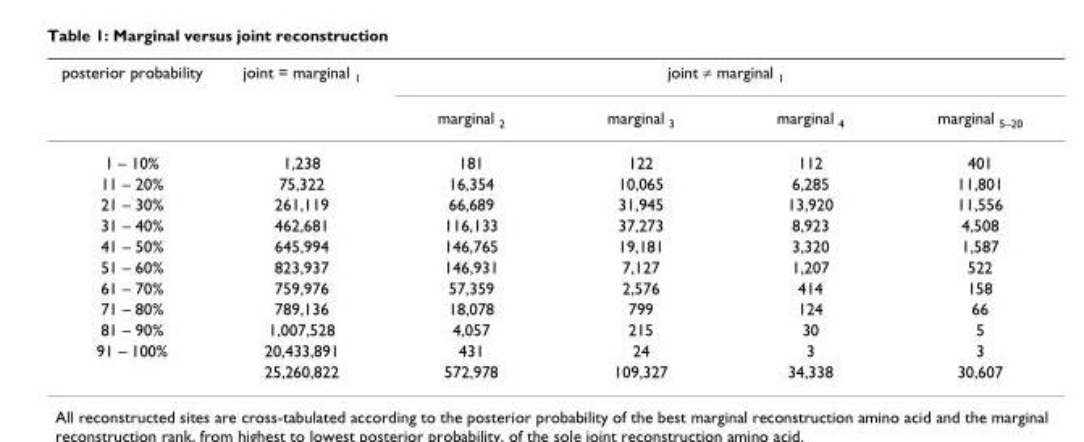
<table><thead><tr><td rowspan="2">posterior probability</td><td rowspan="2">joint = marginal <sub>1</sub></td><td colspan="4">joint ≠ marginal <sub>1</sub></td></tr><tr><td>marginal <sub>2</sub></td><td>marginal <sub>3</sub></td><td>marginal <sub>4</sub></td><td>marginal <sub>5–20</sub></td></tr></thead><tbody><tr><td>1 – 10%</td><td>1,238</td><td>181</td><td>122</td><td>112</td><td>401</td></tr><tr><td>11 – 20%</td><td>75,322</td><td>16,354</td><td>10,065</td><td>6,285</td><td>11,801</td></tr><tr><td>21 – 30%</td><td>261,119</td><td>66,689</td><td>31,945</td><td>13,920</td><td>11,556</td></tr><tr><td>31 – 40%</td><td>462,681</td><td>116,133</td><td>37,273</td><td>8,923</td><td>4,508</td></tr><tr><td>41 – 50%</td><td>645,994</td><td>146,765</td><td>19,181</td><td>3,320</td><td>1,587</td></tr><tr><td>51 – 60%</td><td>823,937</td><td>146,931</td><td>7,127</td><td>1,207</td><td>522</td></tr><tr><td>61 – 70%</td><td>759,976</td><td>57,359</td><td>2,576</td><td>414</td><td>158</td></tr><tr><td>71 – 80%</td><td>789,136</td><td>18,078</td><td>799</td><td>124</td><td>66</td></tr><tr><td>81 – 90%</td><td>1,007,528</td><td>4,057</td><td>215</td><td>30</td><td>5</td></tr><tr><td rowspan="2">91 – 100%</td><td>20,433,891</td><td>431</td><td>24</td><td>3</td><td>3</td></tr><tr><td>25,260,822</td><td>572,978</td><td>109,327</td><td>34,338</td><td>30,607</td></tr></tbody></table>